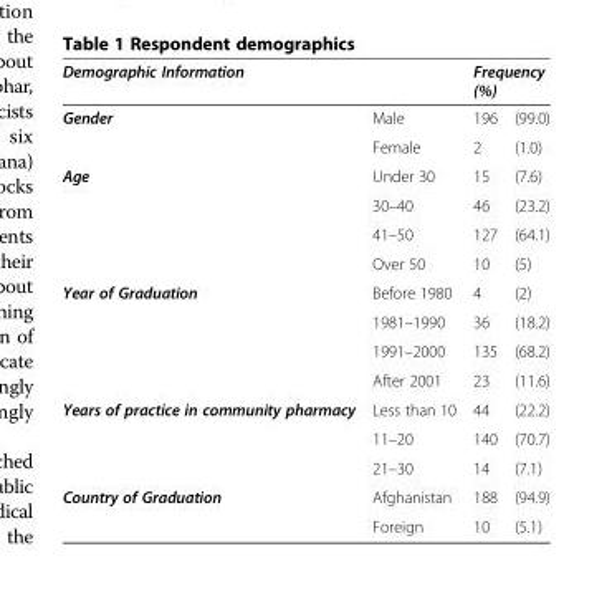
<table><thead><tr><td rowspan="2">Demographic Information Gender</td><td rowspan="2">Male</td><td colspan="2">Frequency (%)</td></tr><tr><td>196</td><td>(99.0)</td></tr></thead><tbody><tr><td></td><td>Female</td><td>2</td><td>(1.0)</td></tr><tr><td rowspan="4">Age</td><td>Under 30</td><td>15</td><td>(7.6)</td></tr><tr><td>30–40</td><td>46</td><td>(23.2)</td></tr><tr><td>41–50</td><td>127</td><td>(64.1)</td></tr><tr><td>Over 50</td><td>10</td><td>(5)</td></tr><tr><td rowspan="4">Year of Graduation</td><td>Before 1980</td><td>4</td><td>(2)</td></tr><tr><td>1981–1990</td><td>36</td><td>(18.2)</td></tr><tr><td>1991–2000</td><td>135</td><td>(68.2)</td></tr><tr><td>After 2001</td><td>23</td><td>(11.6)</td></tr><tr><td rowspan="3">Years of practice in community pharmacy</td><td>Less than 10</td><td>44</td><td>(22.2)</td></tr><tr><td>11–20</td><td>140</td><td>(70.7)</td></tr><tr><td>21–30</td><td>14</td><td>(7.1)</td></tr><tr><td rowspan="2">Country of Graduation</td><td>Afghanistan</td><td>188</td><td>(94.9)</td></tr><tr><td>Foreign</td><td>10</td><td>(5.1)</td></tr></tbody></table>